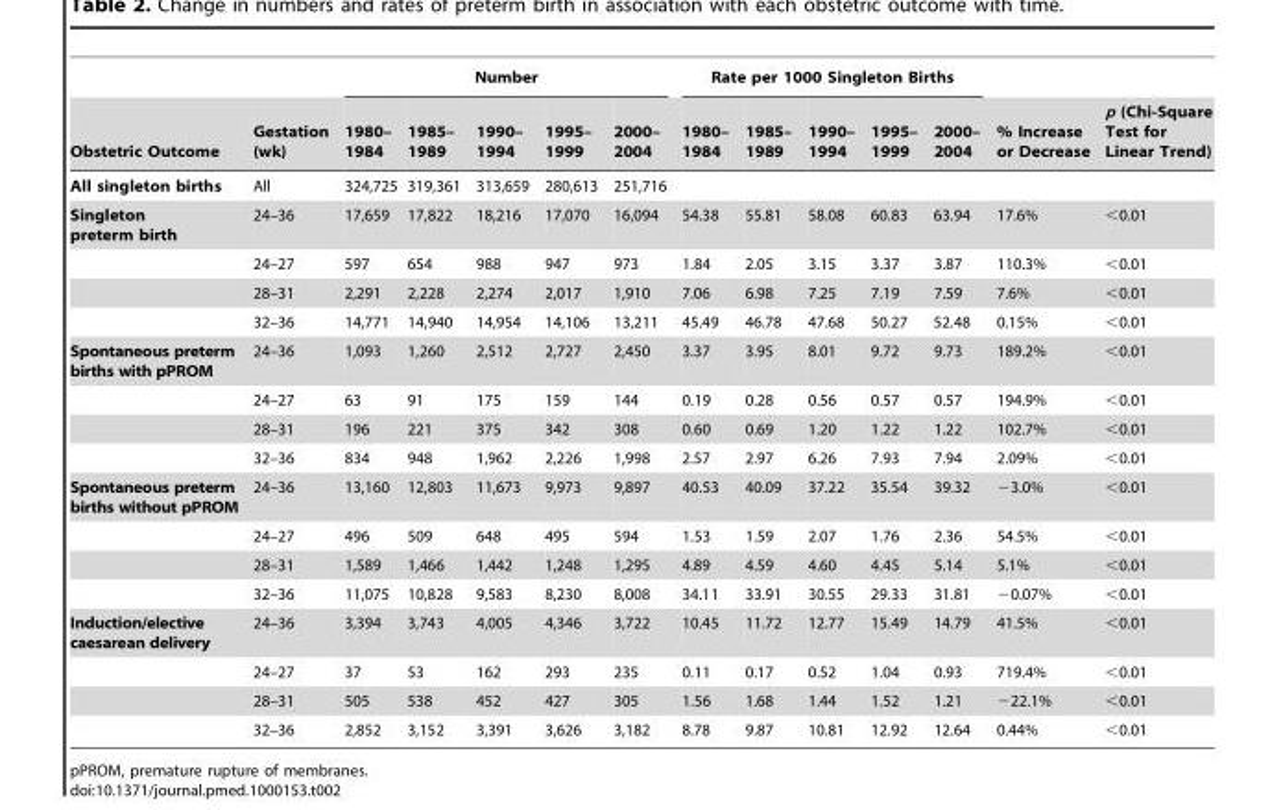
<table><thead><tr><td rowspan="2">Obstetric Outcome</td><td rowspan="2">Gestation (wk)</td><td colspan="5">Number</td><td colspan="5">Rate per 1000 Singleton Births</td><td rowspan="2">% Increase or Decrease</td><td rowspan="2">p (Chi-Square Test for Linear Trend)</td></tr><tr><td>1980– 1984</td><td>1985– 1989</td><td>1990– 1994</td><td>1995– 1999</td><td>2000– 2004</td><td>1980– 1984</td><td>1985– 1989</td><td>1990– 1994</td><td>1995– 1999</td><td>2000– 2004</td></tr></thead><tbody><tr><td>All singleton births</td><td>All</td><td>324,725</td><td>319,361</td><td>313,659</td><td>280,613</td><td>251,716</td><td></td><td></td><td></td><td></td><td></td><td></td><td></td></tr><tr><td rowspan="4">Singleton preterm birth</td><td>24–36</td><td>17,659</td><td>17,822</td><td>18,216</td><td>17,070</td><td>16,094</td><td>54.38</td><td>55.81</td><td>58.08</td><td>60.83</td><td>63.94</td><td>17.6%</td><td>&lt;0.01</td></tr><tr><td>24–27</td><td>597</td><td>654</td><td>988</td><td>947</td><td>973</td><td>1.84</td><td>2.05</td><td>3.15</td><td>3.37</td><td>3.87</td><td>110.3%</td><td>&lt;0.01</td></tr><tr><td>28–31</td><td>2,291</td><td>2,228</td><td>2,274</td><td>2,017</td><td>1,910</td><td>7.06</td><td>6.98</td><td>7.25</td><td>7.19</td><td>7.59</td><td>7.6%</td><td>&lt;0.01</td></tr><tr><td>32–36</td><td>14,771</td><td>14,940</td><td>14,954</td><td>14,106</td><td>13,211</td><td>45.49</td><td>46.78</td><td>47.68</td><td>50.27</td><td>52.48</td><td>0.15%</td><td>&lt;0.01</td></tr><tr><td rowspan="4">Spontaneous preterm births with pPROM</td><td>24–36</td><td>1,093</td><td>1,260</td><td>2,512</td><td>2,727</td><td>2,450</td><td>3.37</td><td>3.95</td><td>8.01</td><td>9.72</td><td>9.73</td><td>189.2%</td><td>&lt;0.01</td></tr><tr><td>24–27</td><td>63</td><td>91</td><td>175</td><td>159</td><td>144</td><td>0.19</td><td>0.28</td><td>0.56</td><td>0.57</td><td>0.57</td><td>194.9%</td><td>&lt;0.01</td></tr><tr><td>28–31</td><td>196</td><td>221</td><td>375</td><td>342</td><td>308</td><td>0.60</td><td>0.69</td><td>1.20</td><td>1.22</td><td>1.22</td><td>102.7%</td><td>&lt;0.01</td></tr><tr><td>32–36</td><td>834</td><td>948</td><td>1,962</td><td>2,226</td><td>1,998</td><td>2.57</td><td>2.97</td><td>6.26</td><td>7.93</td><td>7.94</td><td>2.09%</td><td>&lt;0.01</td></tr><tr><td rowspan="4">Spontaneous preterm births without pPROM</td><td>24–36</td><td>13,160</td><td>12,803</td><td>11,673</td><td>9,973</td><td>9,897</td><td>40.53</td><td>40.09</td><td>37.22</td><td>35.54</td><td>39.32</td><td>−3.0%</td><td>&lt;0.01</td></tr><tr><td>24–27</td><td>496</td><td>509</td><td>648</td><td>495</td><td>594</td><td>1.53</td><td>1.59</td><td>2.07</td><td>1.76</td><td>2.36</td><td>54.5%</td><td>&lt;0.01</td></tr><tr><td>28–31</td><td>1,589</td><td>1,466</td><td>1,442</td><td>1,248</td><td>1,295</td><td>4.89</td><td>4.59</td><td>4.60</td><td>4.45</td><td>5.14</td><td>5.1%</td><td>&lt;0.01</td></tr><tr><td>32–36</td><td>11,075</td><td>10,828</td><td>9,583</td><td>8,230</td><td>8,008</td><td>34.11</td><td>33.91</td><td>30.55</td><td>29.33</td><td>31.81</td><td>−0.07%</td><td>&lt;0.01</td></tr><tr><td rowspan="4">Induction/elective caesarean delivery</td><td>24–36</td><td>3,394</td><td>3,743</td><td>4,005</td><td>4,346</td><td>3,722</td><td>10.45</td><td>11.72</td><td>12.77</td><td>15.49</td><td>14.79</td><td>41.5%</td><td>&lt;0.01</td></tr><tr><td>24–27</td><td>37</td><td>53</td><td>162</td><td>293</td><td>235</td><td>0.11</td><td>0.17</td><td>0.52</td><td>1.04</td><td>0.93</td><td>719.4%</td><td>&lt;0.01</td></tr><tr><td>28–31</td><td>505</td><td>538</td><td>452</td><td>427</td><td>305</td><td>1.56</td><td>1.68</td><td>1.44</td><td>1.52</td><td>1.21</td><td>−22.1%</td><td>&lt;0.01</td></tr><tr><td>32–36</td><td>2,852</td><td>3,152</td><td>3,391</td><td>3,626</td><td>3,182</td><td>8.78</td><td>9.87</td><td>10.81</td><td>12.92</td><td>12.64</td><td>0.44%</td><td>&lt;0.01</td></tr></tbody></table>